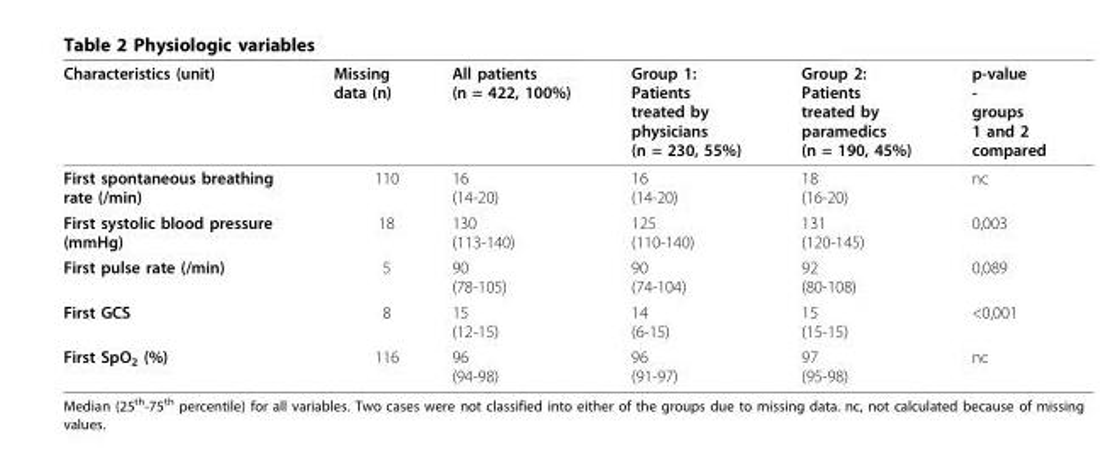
<table><thead><tr><td>Characteristics (unit)</td><td>Missing data (n)</td><td>All patients (n = 422, 100%)</td><td>Group 1: Patients treated by physicians (n = 230, 55%)</td><td>Group 2: Patients treated by paramedics (n = 190, 45%)</td><td>p-value - groups 1 and 2 compared</td></tr></thead><tbody><tr><td>First spontaneous breathing rate (/min)</td><td>110</td><td>16 (14-20)</td><td>16 (14-20)</td><td>18 (16-20)</td><td>nc</td></tr><tr><td>First systolic blood pressure (mmHg)</td><td>18</td><td>130 (113-140)</td><td>125 (110-140)</td><td>131 (120-145)</td><td>0,003</td></tr><tr><td>First pulse rate (/min)</td><td>5</td><td>90 (78-105)</td><td>90 (74-104)</td><td>92 (80-108)</td><td>0,089</td></tr><tr><td>First GCS</td><td>8</td><td>15 (12-15)</td><td>14 (6-15)</td><td>15 (15-15)</td><td>&lt;0,001</td></tr><tr><td>First SpO<sub>2</sub> (%)</td><td>116</td><td>96 (94-98)</td><td>96 (91-97)</td><td>97 (95-98)</td><td>nc</td></tr></tbody></table>